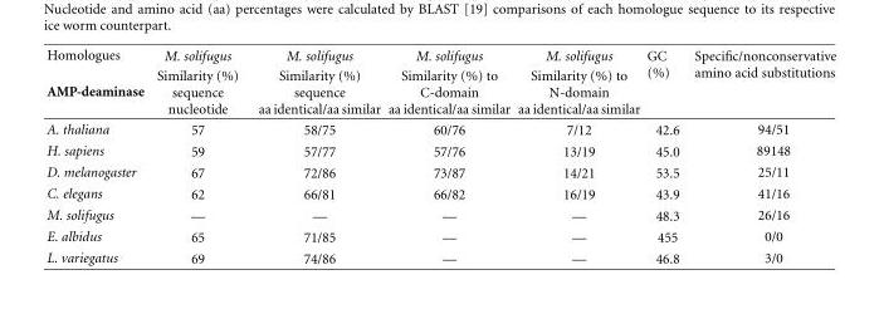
<table><thead><tr><td rowspan="2">Homologues AMP-deaminase</td><td rowspan="2">M. solifugus Similarity (%) sequence nucleotide</td><td rowspan="2">M. solifugus Similarity (%) sequence aa identical/aa similar</td><td rowspan="2">M. solifugus Similarity (%) to C-domain aa identical/aa similar</td><td rowspan="2">M. solifugus Similarity (%) to N-domain aa identical/aa similar</td><td rowspan="2">GC (%)</td><td rowspan="2">Specific/nonconservative amino acid substitutions</td></tr><tr></tr></thead><tbody><tr><td>A. thaliana</td><td>57</td><td>58/75</td><td>60/76</td><td>7/12</td><td>42.6</td><td>94/51</td></tr><tr><td>H. sapiens</td><td>59</td><td>57/77</td><td>57/76</td><td>13/19</td><td>45.0</td><td>89148</td></tr><tr><td>D. melanogaster</td><td>67</td><td>72/86</td><td>73/87</td><td>14/21</td><td>53.5</td><td>25/11</td></tr><tr><td>C. elegans</td><td>62</td><td>66/81</td><td>66/82</td><td>16/19</td><td>43.9</td><td>41/16</td></tr><tr><td>M. solifugus</td><td>—</td><td>—</td><td>—</td><td>—</td><td>48.3</td><td>26/16</td></tr><tr><td>E. albidus</td><td>65</td><td>71/85</td><td>—</td><td>—</td><td>455</td><td>0/0</td></tr><tr><td>L. variegatus</td><td>69</td><td>74/86</td><td>—</td><td>—</td><td>46.8</td><td>3/0</td></tr></tbody></table>